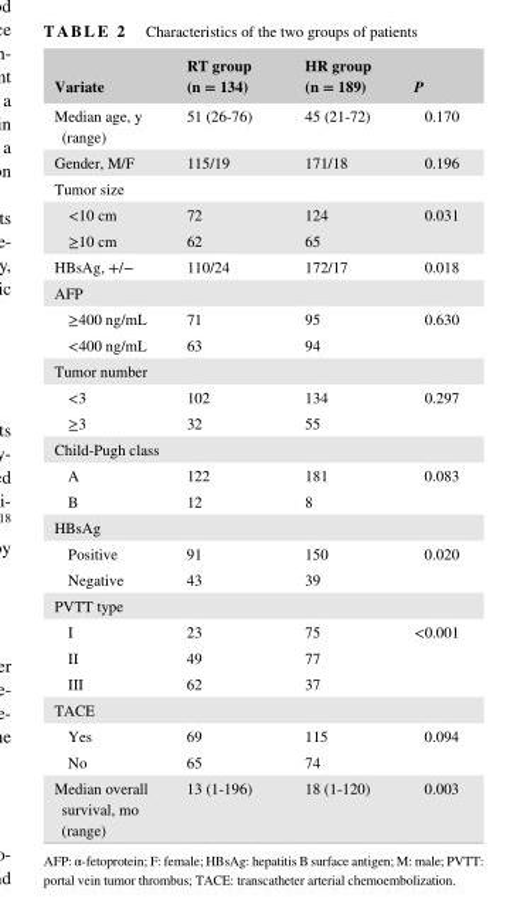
<table><thead><tr><td>Variate</td><td>RT group (n = 134)</td><td>HR group (n = 189)</td><td>P</td></tr></thead><tbody><tr><td>Median age, y (range)</td><td>51 (26- 76)</td><td>45 (21- 72)</td><td>0.170</td></tr><tr><td>Gender, M/F</td><td>115/19</td><td>171/18</td><td>0.196</td></tr><tr><td colspan="4">Tumor size</td></tr><tr><td>&lt;10 cm</td><td>72</td><td>124</td><td rowspan="2">0.031</td></tr><tr><td>≥10 cm</td><td>62</td><td>65</td></tr><tr><td>HBsAg, +/−</td><td>110/24</td><td>172/17</td><td>0.018</td></tr><tr><td colspan="4">AFP</td></tr><tr><td>≥400 ng/mL</td><td>71</td><td>95</td><td rowspan="2">0.630</td></tr><tr><td>&lt;400 ng/mL</td><td>63</td><td>94</td></tr><tr><td colspan="4">Tumor number</td></tr><tr><td>&lt;3</td><td>102</td><td>134</td><td rowspan="2">0.297</td></tr><tr><td>≥3</td><td>32</td><td>55</td></tr><tr><td colspan="4">Child- Pugh class</td></tr><tr><td>A</td><td>122</td><td>181</td><td rowspan="2">0.083</td></tr><tr><td>B</td><td>12</td><td>8</td></tr><tr><td colspan="4">HBsAg</td></tr><tr><td>Positive</td><td>91</td><td>150</td><td rowspan="2">0.020</td></tr><tr><td>Negative</td><td>43</td><td>39</td></tr><tr><td colspan="4">PVTT type</td></tr><tr><td>I</td><td>23</td><td>75</td><td rowspan="3">&lt;0.001</td></tr><tr><td>II</td><td>49</td><td>77</td></tr><tr><td>III</td><td>62</td><td>37</td></tr><tr><td colspan="4">TACE</td></tr><tr><td>Yes</td><td>69</td><td>115</td><td rowspan="2">0.094</td></tr><tr><td>No</td><td>65</td><td>74</td></tr><tr><td>Median overall survival, mo (range)</td><td>13 (1- 196)</td><td>18 (1- 120)</td><td>0.003</td></tr></tbody></table>